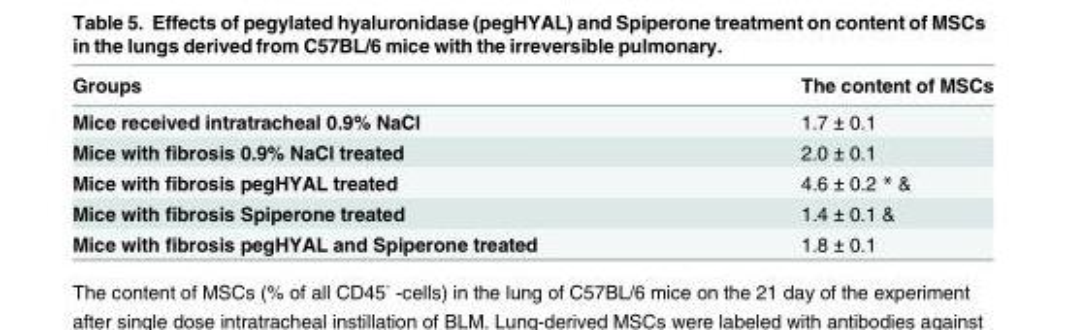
<table><thead><tr><td>Groups</td><td>The content of MSCs</td></tr></thead><tbody><tr><td>Mice received intratracheal 0.9% NaCl</td><td>1.7 ± 0.1</td></tr><tr><td>Mice with fibrosis 0.9% NaCl treated</td><td>2.0 ± 0.1</td></tr><tr><td>Mice with fibrosis pegHYAL treated</td><td>4.6 ± 0.2 * &amp;</td></tr><tr><td>Mice with fibrosis Spiperone treated</td><td>1.4 ± 0.1 &amp;</td></tr><tr><td>Mice with fibrosis pegHYAL and Spiperone treated</td><td>1.8 ± 0.1</td></tr></tbody></table>